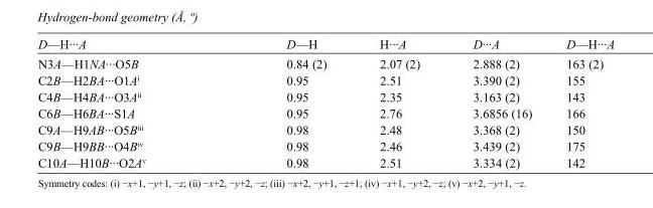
<table><tbody><tr><td>D—H···A</td><td>D—H</td><td>H···A</td><td>D···A</td><td>D—H···A</td></tr><tr><td>N3A—H1NA···O5B</td><td>0.84 (2)</td><td>2.07 (2)</td><td>2.888 (2)</td><td>163 (2)</td></tr><tr><td>C2B—H2BA···O1A<sup>i</sup></td><td>0.95</td><td>2.51</td><td>3.390 (2)</td><td>155</td></tr><tr><td>C4B—H4BA···O3A<sup>ii</sup></td><td>0.95</td><td>2.35</td><td>3.163 (2)</td><td>143</td></tr><tr><td>C6B—H6BA···S1A</td><td>0.95</td><td>2.76</td><td>3.6856 (16)</td><td>166</td></tr><tr><td>C9A—H9AB···O5B<sup>iii</sup></td><td>0.98</td><td>2.48</td><td>3.368 (2)</td><td>150</td></tr><tr><td>C9B—H9BB···O4B<sup>iv</sup></td><td>0.98</td><td>2.46</td><td>3.439 (2)</td><td>175</td></tr><tr><td>C10A—H10B···O2A<sup>v</sup></td><td>0.98</td><td>2.51</td><td>3.334 (2)</td><td>142</td></tr></tbody></table>